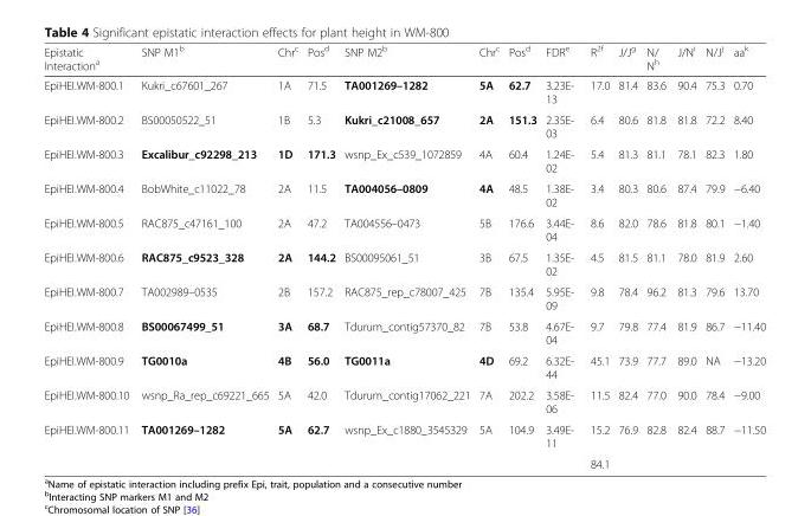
<table><thead><tr><td>Epistatic Interaction<sup>a</sup></td><td>SNP M1<sup>b</sup></td><td>Chr<sup>c</sup></td><td>Pos<sup>d</sup></td><td>SNP M2<sup>b</sup></td><td>Chr<sup>c</sup></td><td>Pos<sup>d</sup></td><td>FDR<sup>e</sup></td><td>R<sup>2f</sup></td><td>J/J<sup>g</sup></td><td>N/ N<sup>h</sup></td><td>J/N<sup>i</sup></td><td>N/J<sup>j</sup></td><td>aa<sup>k</sup></td></tr></thead><tbody><tr><td>EpiHEI.WM-800.1</td><td>Kukri_c67601_267</td><td>1A</td><td>71.5</td><td>TA001269–1282</td><td>5A</td><td>62.7</td><td>3.23E- 13</td><td>17.0</td><td>81.4</td><td>83.6</td><td>90.4</td><td>75.3</td><td>0.70</td></tr><tr><td>EpiHEI.WM-800.2</td><td>BS00050522_51</td><td>1B</td><td>5.3</td><td>Kukri_c21008_657</td><td>2A</td><td>151.3</td><td>2.35E- 03</td><td>6.4</td><td>80.6</td><td>81.8</td><td>81.8</td><td>72.2</td><td>8.40</td></tr><tr><td>EpiHEI.WM-800.3</td><td>Excalibur_c92298_213</td><td>1D</td><td>171.3</td><td>wsnp_Ex_c539_1072859</td><td>4A</td><td>60.4</td><td>1.24E- 02</td><td>5.4</td><td>81.3</td><td>81.1</td><td>78.1</td><td>82.3</td><td>1.80</td></tr><tr><td>EpiHEI.WM-800.4</td><td>BobWhite_c11022_78</td><td>2A</td><td>11.5</td><td>TA004056–0809</td><td>4A</td><td>48.5</td><td>1.38E- 02</td><td>3.4</td><td>80.3</td><td>80.6</td><td>87.4</td><td>79.9</td><td>−6.40</td></tr><tr><td>EpiHEI.WM-800.5</td><td>RAC875_c47161_100</td><td>2A</td><td>47.2</td><td>TA004556–0473</td><td>5B</td><td>176.6</td><td>3.44E- 04</td><td>8.6</td><td>82.0</td><td>78.6</td><td>81.8</td><td>80.1</td><td>−1.40</td></tr><tr><td>EpiHEI.WM-800.6</td><td>RAC875_c9523_328</td><td>2A</td><td>144.2</td><td>BS00095061_51</td><td>3B</td><td>67.5</td><td>1.35E- 02</td><td>4.5</td><td>81.5</td><td>81.1</td><td>78.0</td><td>81.9</td><td>2.60</td></tr><tr><td>EpiHEI.WM-800.7</td><td>TA002989–0535</td><td>2B</td><td>157.2</td><td>RAC875_rep_c78007_425</td><td>7B</td><td>135.4</td><td>5.95E- 09</td><td>9.8</td><td>78.4</td><td>96.2</td><td>81.3</td><td>79.6</td><td>13.70</td></tr><tr><td>EpiHEI.WM-800.8</td><td>BS00067499_51</td><td>3A</td><td>68.7</td><td>Tdurum_contig57370_82</td><td>7B</td><td>53.8</td><td>4.67E- 04</td><td>9.7</td><td>79.8</td><td>77.4</td><td>81.9</td><td>86.7</td><td>−11.40</td></tr><tr><td>EpiHEI.WM-800.9</td><td>TG0010a</td><td>4B</td><td>56.0</td><td>TG0011a</td><td>4D</td><td>69.2</td><td>6.32E- 44</td><td>45.1</td><td>73.9</td><td>77.7</td><td>89.0</td><td>NA</td><td>−13.20</td></tr><tr><td>EpiHEI.WM-800.10</td><td>wsnp_Ra_rep_c69221_665</td><td>5A</td><td>42.0</td><td>Tdurum_contig17062_221</td><td>7A</td><td>202.2</td><td>3.58E- 06</td><td>11.5</td><td>82.4</td><td>77.0</td><td>90.0</td><td>78.4</td><td>−9.00</td></tr><tr><td rowspan="2">EpiHEI.WM-800.11</td><td>TA001269–1282</td><td>5A</td><td>62.7</td><td>wsnp_Ex_c1880_3545329</td><td>5A</td><td>104.9</td><td>3.49E- 11</td><td>15.2</td><td>76.9</td><td>82.8</td><td>82.4</td><td>88.7</td><td>−11.50</td></tr><tr><td></td><td></td><td></td><td></td><td></td><td></td><td></td><td>84.1</td><td></td><td></td><td></td><td></td><td></td></tr></tbody></table>